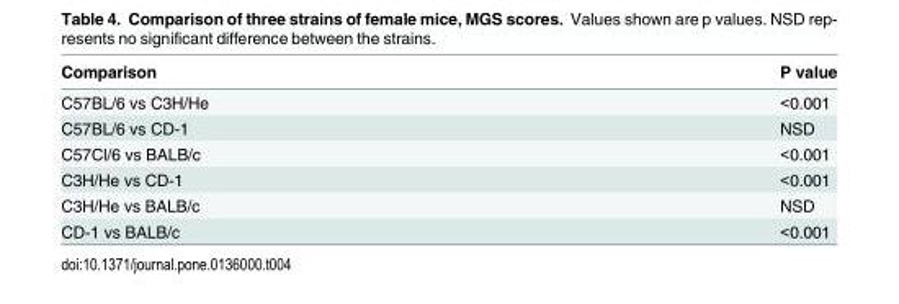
<table><thead><tr><td>Comparison</td><td>P value</td></tr></thead><tbody><tr><td>C57BL/6 vs C3H/He</td><td>&lt;0.001</td></tr><tr><td>C57BL/6 vs CD-1</td><td>NSD</td></tr><tr><td>C57Cl/6 vs BALB/c</td><td>&lt;0.001</td></tr><tr><td>C3H/He vs CD-1</td><td>&lt;0.001</td></tr><tr><td>C3H/He vs BALB/c</td><td>NSD</td></tr><tr><td>CD-1 vs BALB/c</td><td>&lt;0.001</td></tr></tbody></table>